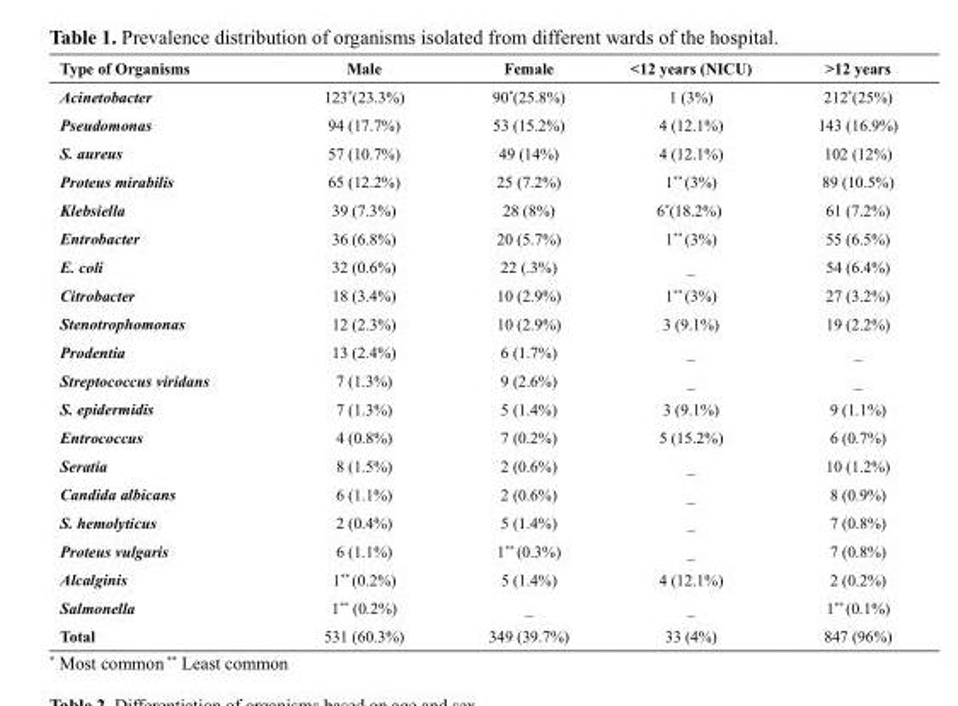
<table><thead><tr><td>Type of Organisms</td><td>Male</td><td>female</td><td>&lt;12 years (NICU)</td><td>&gt;12 years</td></tr></thead><tbody><tr><td>Acinetobacter</td><td>123*(23.3%)</td><td>90*(25.8%)</td><td>1 (3%)</td><td>212*(25%)</td></tr><tr><td>Pseudomonas</td><td>94 (17.7%)</td><td>53 (15.2%)</td><td>4 (12.1%)</td><td>143 (16.9%)</td></tr><tr><td>S. aureus</td><td>57 (10.7%)</td><td>49 (14%)</td><td>4 (12.1%)</td><td>102 (12%)</td></tr><tr><td>Proteus mirabilis</td><td>65 (12.2%)</td><td>25 (7.2%)</td><td>1** (3%)</td><td>89 (10.5%)</td></tr><tr><td>Klebsiella</td><td>39 (7.3%)</td><td>28 (8%)</td><td>6*(18.2%)</td><td>61 (7.2%)</td></tr><tr><td>Entrobacter</td><td>36 (6.8%)</td><td>20 (5.7%)</td><td>1** (3%)</td><td>55 (6.5%)</td></tr><tr><td>E. coli</td><td>32 (0.6%)</td><td>22 (.3%)</td><td>_</td><td>54 (6.4%)</td></tr><tr><td>Citrobacter</td><td>18 (3.4%)</td><td>10 (2.9%)</td><td>1** (3%)</td><td>27 (3.2%)</td></tr><tr><td>Stenotrophomonas</td><td>12 (2.3%)</td><td>10 (2.9%)</td><td>3 (9.1%)</td><td>19 (2.2%)</td></tr><tr><td>Prodentia</td><td>13 (2.4%)</td><td>6 (1.7%)</td><td>_</td><td>_</td></tr><tr><td>Streptococcus viridans</td><td>7 (1.3%)</td><td>9 (2.6%)</td><td>_</td><td>_</td></tr><tr><td>S. epidermidis</td><td>7 (1.3%)</td><td>5 (1.4%)</td><td>3 (9.1%)</td><td>9 (1.1%)</td></tr><tr><td>Entrococcus</td><td>4 (0.8%)</td><td>7 (0.2%)</td><td>5 (15.2%)</td><td>6 (0.7%)</td></tr><tr><td>Seratia</td><td>8 (1.5%)</td><td>2 (0.6%)</td><td>_</td><td>10 (1.2%)</td></tr><tr><td>Candida albicans</td><td>6 (1.1%)</td><td>2 (0.6%)</td><td>_</td><td>8 (0.9%)</td></tr><tr><td>S. hemolyticus</td><td>2 (0.4%)</td><td>5 (1.4%)</td><td>_</td><td>7 (0.8%)</td></tr><tr><td>Proteus vulgaris</td><td>6 (1.1%)</td><td>1** (0.3%)</td><td>_</td><td>7 (0.8%)</td></tr><tr><td>Alcalginis</td><td>1** (0.2%)</td><td>5 (1.4%)</td><td>4 (12.1%)</td><td>2 (0.2%)</td></tr><tr><td>Salmonella</td><td>1** (0.2%)</td><td>_</td><td>_</td><td>1** (0.1%)</td></tr><tr><td>Total</td><td>531 (60.3%)</td><td>349 (39.7%)</td><td>33 (4%)</td><td>847 (96%)</td></tr></tbody></table>